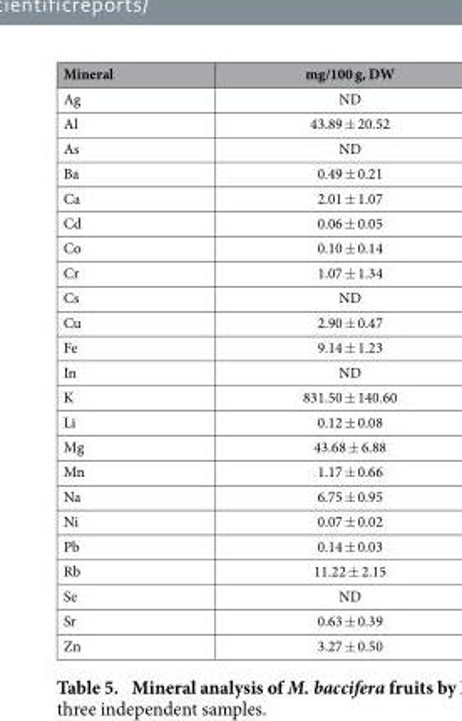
<table><thead><tr><td>Mineral</td><td>mg/100 g, DW</td></tr></thead><tbody><tr><td>Ag</td><td>ND</td></tr><tr><td>Al</td><td>43.89 ± 20.52</td></tr><tr><td>As</td><td>ND</td></tr><tr><td>Ba</td><td>0.49 ± 0.21</td></tr><tr><td>Ca</td><td>2.01 ± 1.07</td></tr><tr><td>Cd</td><td>0.06 ± 0.05</td></tr><tr><td>Co</td><td>0.10 ± 0.14</td></tr><tr><td>Cr</td><td>1.07 ± 1.34</td></tr><tr><td>Cs</td><td>ND</td></tr><tr><td>Cu</td><td>2.90 ± 0.47</td></tr><tr><td>Fe</td><td>9.14 ± 1.23</td></tr><tr><td>In</td><td>ND</td></tr><tr><td>K</td><td>831.50 ± 140.60</td></tr><tr><td>Li</td><td>0.12 ± 0.08</td></tr><tr><td>Mg</td><td>43.68 ± 6.88</td></tr><tr><td>Mn</td><td>1.17 ± 0.66</td></tr><tr><td>Na</td><td>6.75 ± 0.95</td></tr><tr><td>Ni</td><td>0.07 ± 0.02</td></tr><tr><td>Pb</td><td>0.14 ± 0.03</td></tr><tr><td>Rb</td><td>11.22 ± 2.15</td></tr><tr><td>Se</td><td>ND</td></tr><tr><td>Sr</td><td>0.63 ± 0.39</td></tr><tr><td>Zn</td><td>3.27 ± 0.50</td></tr></tbody></table>